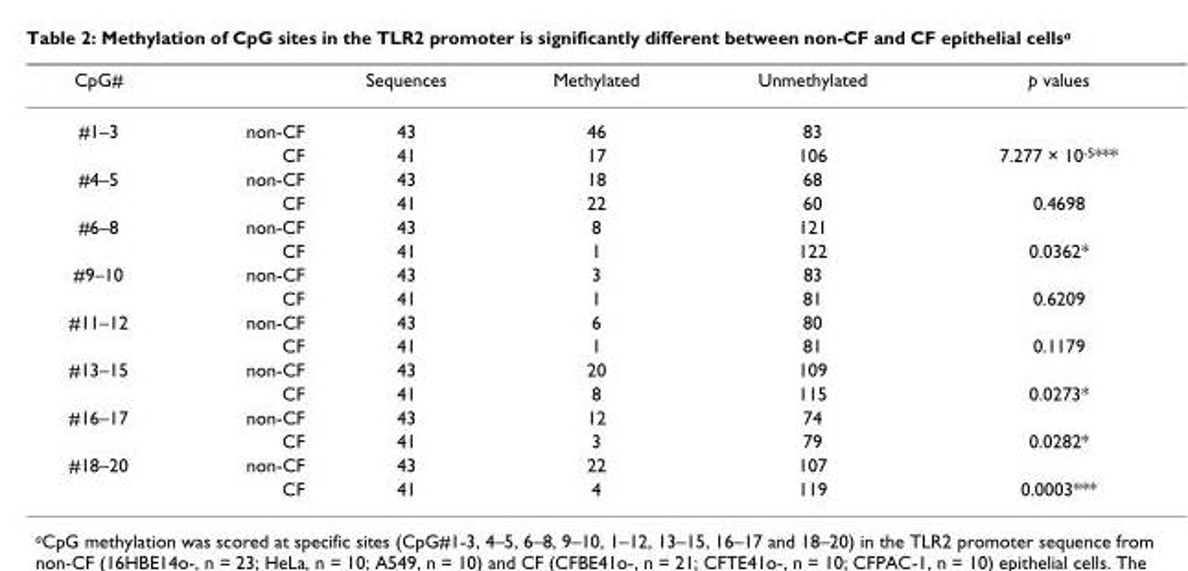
<table><thead><tr><td>CpG#</td><td></td><td>Sequences</td><td>Methylated</td><td>Unmethylated</td><td>p values</td></tr></thead><tbody><tr><td rowspan="2">#1–3</td><td>non-CF</td><td>43</td><td>46</td><td>83</td><td></td></tr><tr><td>CF</td><td>41</td><td>17</td><td>106</td><td>7.277 × 10<sup>-5</sup>***</td></tr><tr><td rowspan="2">#4–5</td><td>non-CF</td><td>43</td><td>18</td><td>68</td><td></td></tr><tr><td>CF</td><td>41</td><td>22</td><td>60</td><td>0.4698</td></tr><tr><td rowspan="2">#6–8</td><td>non-CF</td><td>43</td><td>8</td><td>121</td><td></td></tr><tr><td>CF</td><td>41</td><td>1</td><td>122</td><td>0.0362*</td></tr><tr><td rowspan="2">#9–10</td><td>non-CF</td><td>43</td><td>3</td><td>83</td><td></td></tr><tr><td>CF</td><td>41</td><td>1</td><td>81</td><td>0.6209</td></tr><tr><td rowspan="2">#11–12</td><td>non-CF</td><td>43</td><td>6</td><td>80</td><td></td></tr><tr><td>CF</td><td>41</td><td>1</td><td>81</td><td>0.1179</td></tr><tr><td rowspan="2">#13–15</td><td>non-CF</td><td>43</td><td>20</td><td>109</td><td></td></tr><tr><td>CF</td><td>41</td><td>8</td><td>115</td><td>0.0273*</td></tr><tr><td rowspan="2">#16–17</td><td>non-CF</td><td>43</td><td>12</td><td>74</td><td></td></tr><tr><td>CF</td><td>41</td><td>3</td><td>79</td><td>0.0282*</td></tr><tr><td rowspan="2">#18–20</td><td>non-CF</td><td>43</td><td>22</td><td>107</td><td></td></tr><tr><td>CF</td><td>41</td><td>4</td><td>119</td><td>0.0003***</td></tr></tbody></table>